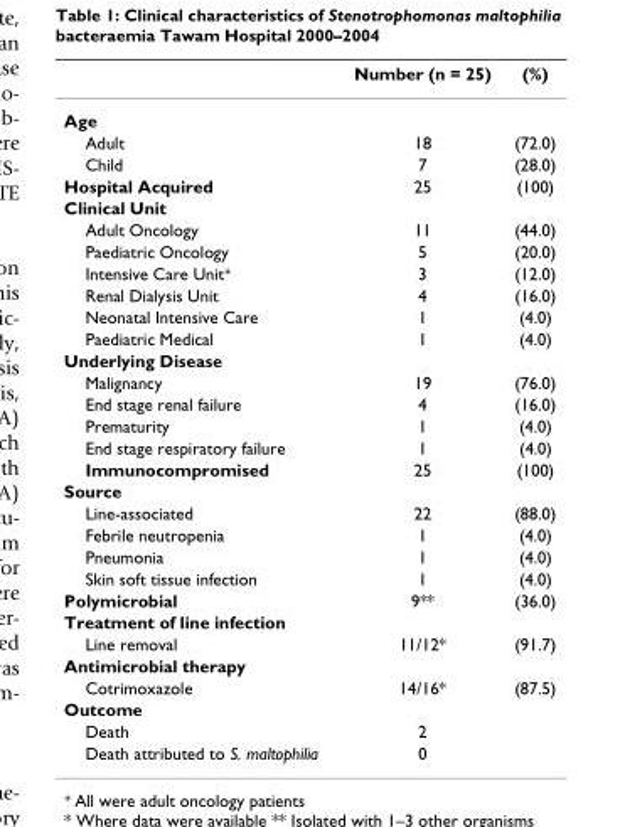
<table><thead><tr><td></td><td>Number (n = 25)</td><td>(%)</td></tr></thead><tbody><tr><td colspan="3">Age</td></tr><tr><td>Adult</td><td>18</td><td>(72.0)</td></tr><tr><td>Child</td><td>7</td><td>(28.0)</td></tr><tr><td>Hospital Acquired</td><td>25</td><td>(100)</td></tr><tr><td colspan="3">Clinical Unit</td></tr><tr><td>Adult Oncology</td><td>11</td><td>(44.0)</td></tr><tr><td>Paediatric Oncology</td><td>5</td><td>(20.0)</td></tr><tr><td>Intensive Care Unit<sup>+</sup></td><td>3</td><td>(12.0)</td></tr><tr><td>Renal Dialysis Unit</td><td>4</td><td>(16.0)</td></tr><tr><td>Neonatal Intensive Care</td><td>1</td><td>(4.0)</td></tr><tr><td>Paediatric Medical</td><td>1</td><td>(4.0)</td></tr><tr><td colspan="3">Underlying Disease</td></tr><tr><td>Malignancy</td><td>19</td><td>(76.0)</td></tr><tr><td>End stage renal failure</td><td>4</td><td>(16.0)</td></tr><tr><td>Prematurity</td><td>1</td><td>(4.0)</td></tr><tr><td>End stage respiratory failure</td><td>1</td><td>(4.0)</td></tr><tr><td>Immunocompromised</td><td>25</td><td>(100)</td></tr><tr><td colspan="3">Source</td></tr><tr><td>Line-associated</td><td>22</td><td>(88.0)</td></tr><tr><td>Febrile neutropenia</td><td>1</td><td>(4.0)</td></tr><tr><td>Pneumonia</td><td>1</td><td>(4.0)</td></tr><tr><td>Skin soft tissue infection</td><td>1</td><td>(4.0)</td></tr><tr><td>Polymicrobial</td><td>9**</td><td>(36.0)</td></tr><tr><td colspan="3">Treatment of line infection</td></tr><tr><td>Line removal</td><td>11/12*</td><td>(91.7)</td></tr><tr><td colspan="3">Antimicrobial therapy</td></tr><tr><td>Cotrimoxazole</td><td>14/16*</td><td>(87.5)</td></tr><tr><td colspan="3">Outcome</td></tr><tr><td>Death</td><td>2</td><td></td></tr><tr><td>Death attributed to S. maltophilia</td><td>0</td><td></td></tr></tbody></table>